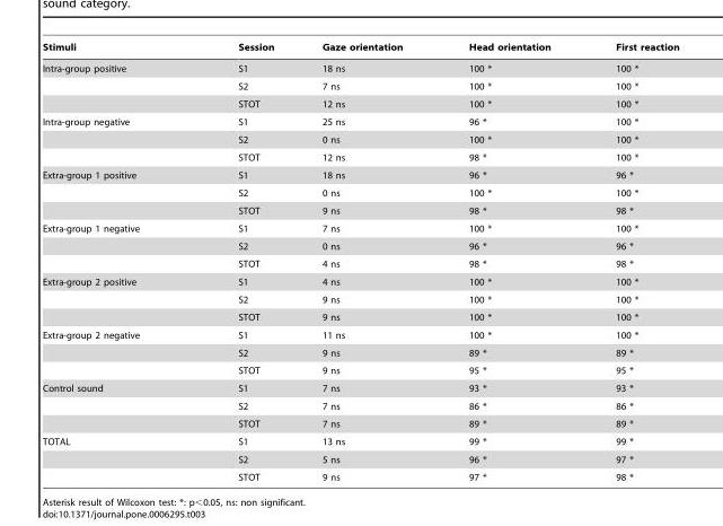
<table><thead><tr><td>Stimuli</td><td>Session</td><td>Gaze orientation</td><td>Head orientation</td><td>First reaction</td></tr></thead><tbody><tr><td rowspan="3">Intra-group positive</td><td>S1</td><td>18 ns</td><td>100 *</td><td>100 *</td></tr><tr><td>S2</td><td>7 ns</td><td>100 *</td><td>100 *</td></tr><tr><td>STOT</td><td>12 ns</td><td>100 *</td><td>100 *</td></tr><tr><td rowspan="3">Intra-group negative</td><td>S1</td><td>25 ns</td><td>96 *</td><td>100 *</td></tr><tr><td>S2</td><td>0 ns</td><td>100 *</td><td>100 *</td></tr><tr><td>STOT</td><td>12 ns</td><td>98 *</td><td>100 *</td></tr><tr><td rowspan="3">Extra-group 1 positive</td><td>S1</td><td>18 ns</td><td>96 *</td><td>96 *</td></tr><tr><td>S2</td><td>0 ns</td><td>100 *</td><td>100 *</td></tr><tr><td>STOT</td><td>9 ns</td><td>98 *</td><td>98 *</td></tr><tr><td rowspan="3">Extra-group 1 negative</td><td>S1</td><td>7 ns</td><td>100 *</td><td>100 *</td></tr><tr><td>S2</td><td>0 ns</td><td>96 *</td><td>96 *</td></tr><tr><td>STOT</td><td>4 ns</td><td>98 *</td><td>98 *</td></tr><tr><td rowspan="3">Extra-group 2 positive</td><td>S1</td><td>4 ns</td><td>100 *</td><td>100 *</td></tr><tr><td>S2</td><td>9 ns</td><td>100 *</td><td>100 *</td></tr><tr><td>STOT</td><td>9 ns</td><td>100 *</td><td>100 *</td></tr><tr><td rowspan="3">Extra-group 2 negative</td><td>S1</td><td>11 ns</td><td>100 *</td><td>100 *</td></tr><tr><td>S2</td><td>9 ns</td><td>89 *</td><td>89 *</td></tr><tr><td>STOT</td><td>9 ns</td><td>95 *</td><td>95 *</td></tr><tr><td rowspan="3">Control sound</td><td>S1</td><td>7 ns</td><td>93 *</td><td>93 *</td></tr><tr><td>S2</td><td>7 ns</td><td>86 *</td><td>86 *</td></tr><tr><td>STOT</td><td>7 ns</td><td>89 *</td><td>89 *</td></tr><tr><td rowspan="3">TOTAL</td><td>S1</td><td>13 ns</td><td>99 *</td><td>99 *</td></tr><tr><td>S2</td><td>5 ns</td><td>96 *</td><td>97 *</td></tr><tr><td>STOT</td><td>9 ns</td><td>97 *</td><td>98 *</td></tr></tbody></table>